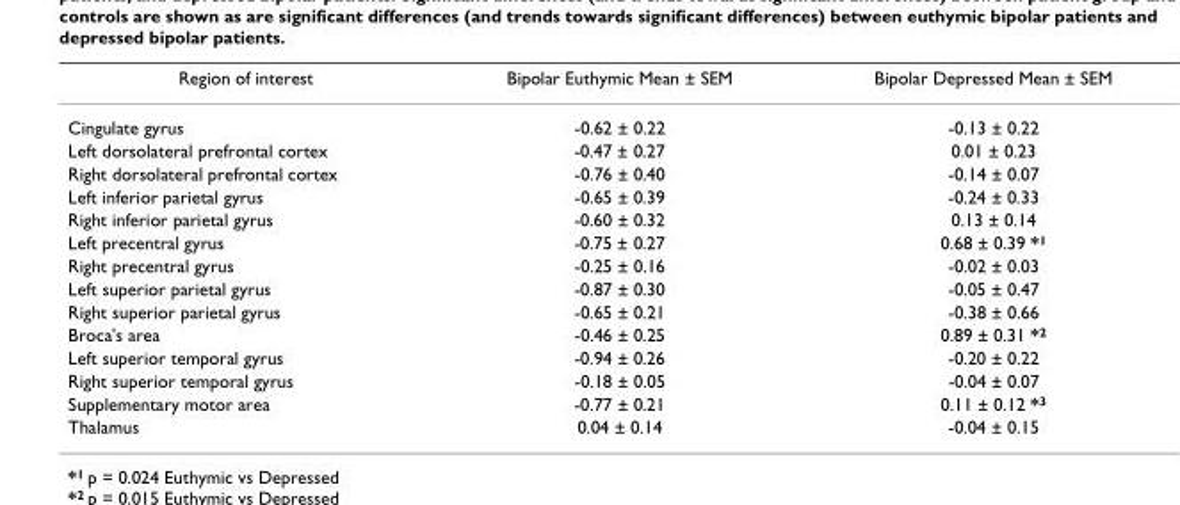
<table><thead><tr><td>Region of interest</td><td>Bipolar Euthymic Mean ± SEM</td><td>Bipolar Depressed Mean ± SEM</td></tr></thead><tbody><tr><td>Cingulate gyrus</td><td>-0.62 ± 0.22</td><td>-0.13 ± 0.22</td></tr><tr><td>Left dorsolateral prefrontal cortex</td><td>-0.47 ± 0.27</td><td>0.01 ± 0.23</td></tr><tr><td>Right dorsolateral prefrontal cortex</td><td>-0.76 ± 0.40</td><td>-0.14 ± 0.07</td></tr><tr><td>Left inferior parietal gyrus</td><td>-0.65 ± 0.39</td><td>-0.24 ± 0.33</td></tr><tr><td>Right inferior parietal gyrus</td><td>-0.60 ± 0.32</td><td>0.13 ± 0.14</td></tr><tr><td>Left precentral gyrus</td><td>-0.75 ± 0.27</td><td>0.68 ± 0.39 *<sup>1</sup></td></tr><tr><td>Right precentral gyrus</td><td>-0.25 ± 0.16</td><td>-0.02 ± 0.03</td></tr><tr><td>Left superior parietal gyrus</td><td>-0.87 ± 0.30</td><td>-0.05 ± 0.47</td></tr><tr><td>Right superior parietal gyrus</td><td>-0.65 ± 0.21</td><td>-0.38 ± 0.66</td></tr><tr><td>Broca&#x27;s area</td><td>-0.46 ± 0.25</td><td>0.89 ± 0.31 *<sup>2</sup></td></tr><tr><td>Left superior temporal gyrus</td><td>-0.94 ± 0.26</td><td>-0.20 ± 0.22</td></tr><tr><td>Right superior temporal gyrus</td><td>-0.18 ± 0.05</td><td>-0.04 ± 0.07</td></tr><tr><td>Supplementary motor area</td><td>-0.77 ± 0.21</td><td>0.11 ± 0.12 *<sup>3</sup></td></tr><tr><td>Thalamus</td><td>0.04 ± 0.14</td><td>-0.04 ± 0.15</td></tr></tbody></table>